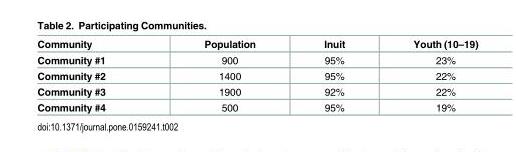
<table><thead><tr><td>Community</td><td>Population</td><td>Inuit</td><td>Youth (10–19)</td></tr></thead><tbody><tr><td>Community #1</td><td>900</td><td>95%</td><td>23%</td></tr><tr><td>Community #2</td><td>1400</td><td>95%</td><td>22%</td></tr><tr><td>Community #3</td><td>1900</td><td>92%</td><td>22%</td></tr><tr><td>Community #4</td><td>500</td><td>95%</td><td>19%</td></tr></tbody></table>